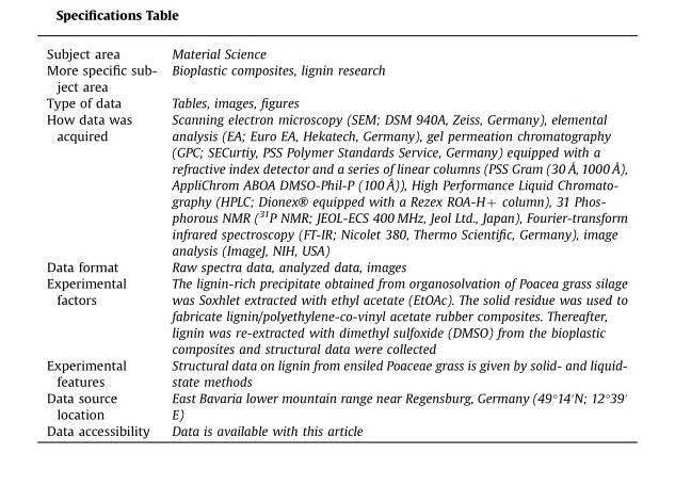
<table><tbody><tr><td>Subject area</td><td>Material Science</td></tr><tr><td>More specific sub- ject area</td><td>Bioplastic composites, lignin research</td></tr><tr><td>Type of data</td><td>Tables, images, figures</td></tr><tr><td>How data was acquired</td><td>Scanning electron microscopy (SEM; DSM 940A, Zeiss, Germany), elemental analysis (EA; Euro EA, Hekatech, Germany), gel permeation chromatography (GPC; SECurtiy, PSS Polymer Standards Service, Germany) equipped with a refractive index detector and a series of linear columns (PSS Gram (30 Å, 1000 Å), AppliChrom ABOA DMSO-Phil-P (100 Å)), High Performance Liquid Chromato- graphy (HPLC; Dionex® equipped with a Rezex ROA-Hþ column), 31 Phos- phorous NMR (31P NMR; JEOL-ECS 400 MHz, Jeol Ltd., Japan), Fourier-transform infrared spectroscopy (FT-IR; Nicolet 380, Thermo Scientific, Germany), image analysis (ImageJ, NIH, USA)</td></tr><tr><td>Data format</td><td>Raw spectra data, analyzed data, images</td></tr><tr><td>Experimental factors</td><td>The lignin-rich precipitate obtained from organosolvation of Poacea grass silage was Soxhlet extracted with ethyl acetate (EtOAc). The solid residue was used to fabricate lignin/polyethylene-co-vinyl acetate rubber composites. Thereafter, lignin was re-extracted with dimethyl sulfoxide (DMSO) from the bioplastic composites and structural data were collected</td></tr><tr><td>Experimental features</td><td>Structural data on lignin from ensiled Poaceae grass is given by solid- and liquid- state methods</td></tr><tr><td>Data source location</td><td>East Bavaria lower mountain range near Regensburg, Germany (49°14′N; 12°39′ E)</td></tr><tr><td>Data accessibility</td><td>Data is available with this article</td></tr></tbody></table>